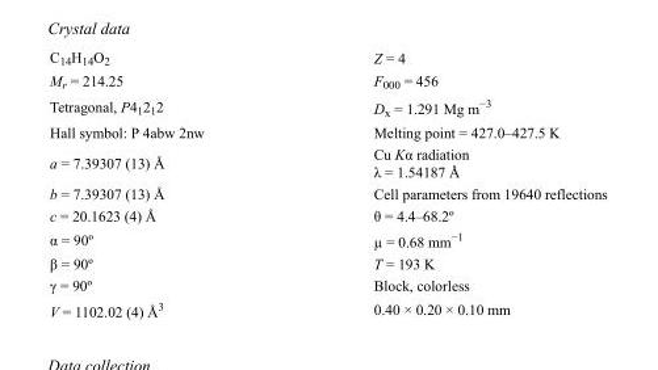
<table><tbody><tr><td>C<sub>14</sub>H<sub>14</sub>O<sub>2</sub></td><td>Z = 4</td></tr><tr><td>M<sub>r</sub> = 214.25</td><td>F<sub>000</sub> = 456</td></tr><tr><td>Tetragonal, P4<sub>1</sub>2<sub>1</sub>2</td><td>D<sub>x</sub> = 1.291 Mg m<sup>−3</sup></td></tr><tr><td>Hall symbol: P 4abw 2nw</td><td>Melting point = 427.0–427.5 K</td></tr><tr><td>a = 7.39307 (13) Å</td><td>Cu Kα radiation λ = 1.54187 Å</td></tr><tr><td>b = 7.39307 (13) Å</td><td>Cell parameters from 19640 reflections</td></tr><tr><td>c = 20.1623 (4) Å</td><td>θ = 4.4–68.2º</td></tr><tr><td>α = 90º</td><td>µ = 0.68 mm<sup>−1</sup></td></tr><tr><td>β = 90º</td><td>T = 193 K</td></tr><tr><td>γ = 90º</td><td>Block, colorless</td></tr><tr><td>V = 1102.02 (4) Å<sup>3</sup></td><td>0.40 × 0.20 × 0.10 mm</td></tr></tbody></table>